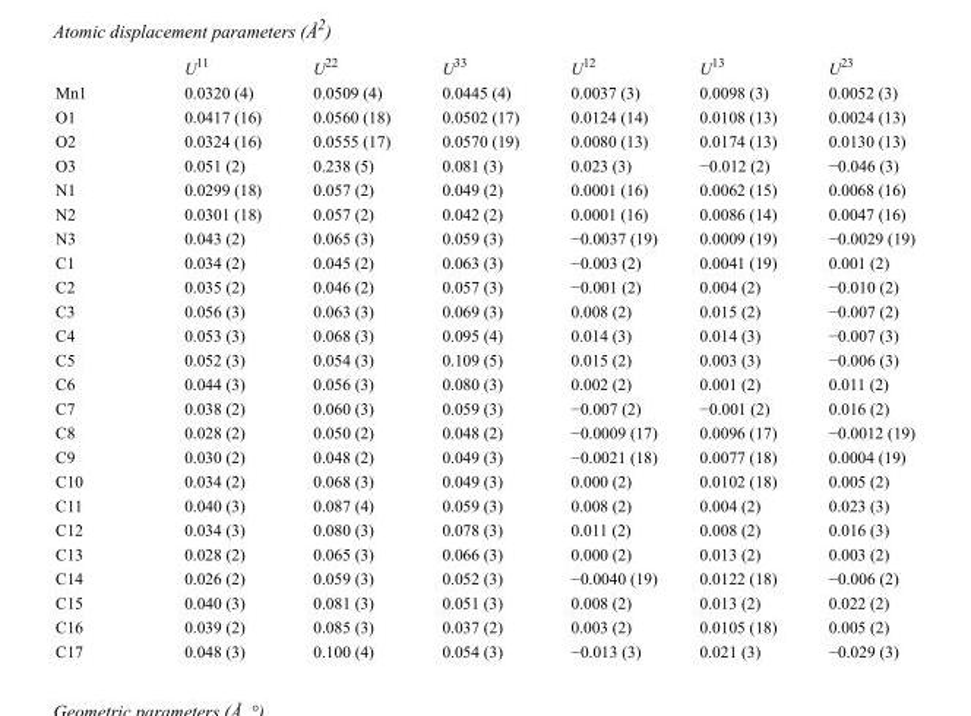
<table><thead><tr><td></td><td>U<sup>11</sup></td><td>U<sup>22</sup></td><td>U<sup>33</sup></td><td>U<sup>12</sup></td><td>U<sup>13</sup></td><td>U<sup>23</sup></td></tr></thead><tbody><tr><td>Mn1</td><td>0.0320 (4)</td><td>0.0509 (4)</td><td>0.0445 (4)</td><td>0.0037 (3)</td><td>0.0098 (3)</td><td>0.0052 (3)</td></tr><tr><td>O1</td><td>0.0417 (16)</td><td>0.0560 (18)</td><td>0.0502 (17)</td><td>0.0124 (14)</td><td>0.0108 (13)</td><td>0.0024 (13)</td></tr><tr><td>O2</td><td>0.0324 (16)</td><td>0.0555 (17)</td><td>0.0570 (19)</td><td>0.0080 (13)</td><td>0.0174 (13)</td><td>0.0130 (13)</td></tr><tr><td>O3</td><td>0.051 (2)</td><td>0.238 (5)</td><td>0.081 (3)</td><td>0.023 (3)</td><td>−0.012 (2)</td><td>−0.046 (3)</td></tr><tr><td>N1</td><td>0.0299 (18)</td><td>0.057 (2)</td><td>0.049 (2)</td><td>0.0001 (16)</td><td>0.0062 (15)</td><td>0.0068 (16)</td></tr><tr><td>N2</td><td>0.0301 (18)</td><td>0.057 (2)</td><td>0.042 (2)</td><td>0.0001 (16)</td><td>0.0086 (14)</td><td>0.0047 (16)</td></tr><tr><td>N3</td><td>0.043 (2)</td><td>0.065 (3)</td><td>0.059 (3)</td><td>−0.0037 (19)</td><td>0.0009 (19)</td><td>−0.0029 (19)</td></tr><tr><td>C1</td><td>0.034 (2)</td><td>0.045 (2)</td><td>0.063 (3)</td><td>−0.003 (2)</td><td>0.0041 (19)</td><td>0.001 (2)</td></tr><tr><td>C2</td><td>0.035 (2)</td><td>0.046 (2)</td><td>0.057 (3)</td><td>−0.001 (2)</td><td>0.004 (2)</td><td>−0.010 (2)</td></tr><tr><td>C3</td><td>0.056 (3)</td><td>0.063 (3)</td><td>0.069 (3)</td><td>0.008 (2)</td><td>0.015 (2)</td><td>−0.007 (2)</td></tr><tr><td>C4</td><td>0.053 (3)</td><td>0.068 (3)</td><td>0.095 (4)</td><td>0.014 (3)</td><td>0.014 (3)</td><td>−0.007 (3)</td></tr><tr><td>C5</td><td>0.052 (3)</td><td>0.054 (3)</td><td>0.109 (5)</td><td>0.015 (2)</td><td>0.003 (3)</td><td>−0.006 (3)</td></tr><tr><td>C6</td><td>0.044 (3)</td><td>0.056 (3)</td><td>0.080 (3)</td><td>0.002 (2)</td><td>0.001 (2)</td><td>0.011 (2)</td></tr><tr><td>C7</td><td>0.038 (2)</td><td>0.060 (3)</td><td>0.059 (3)</td><td>−0.007 (2)</td><td>−0.001 (2)</td><td>0.016 (2)</td></tr><tr><td>C8</td><td>0.028 (2)</td><td>0.050 (2)</td><td>0.048 (2)</td><td>−0.0009 (17)</td><td>0.0096 (17)</td><td>−0.0012 (19)</td></tr><tr><td>C9</td><td>0.030 (2)</td><td>0.048 (2)</td><td>0.049 (3)</td><td>−0.0021 (18)</td><td>0.0077 (18)</td><td>0.0004 (19)</td></tr><tr><td>C10</td><td>0.034 (2)</td><td>0.068 (3)</td><td>0.049 (3)</td><td>0.000 (2)</td><td>0.0102 (18)</td><td>0.005 (2)</td></tr><tr><td>C11</td><td>0.040 (3)</td><td>0.087 (4)</td><td>0.059 (3)</td><td>0.008 (2)</td><td>0.004 (2)</td><td>0.023 (3)</td></tr><tr><td>C12</td><td>0.034 (3)</td><td>0.080 (3)</td><td>0.078 (3)</td><td>0.011 (2)</td><td>0.008 (2)</td><td>0.016 (3)</td></tr><tr><td>C13</td><td>0.028 (2)</td><td>0.065 (3)</td><td>0.066 (3)</td><td>0.000 (2)</td><td>0.013 (2)</td><td>0.003 (2)</td></tr><tr><td>C14</td><td>0.026 (2)</td><td>0.059 (3)</td><td>0.052 (3)</td><td>−0.0040 (19)</td><td>0.0122 (18)</td><td>−0.006 (2)</td></tr><tr><td>C15</td><td>0.040 (3)</td><td>0.081 (3)</td><td>0.051 (3)</td><td>0.008 (2)</td><td>0.013 (2)</td><td>0.022 (2)</td></tr><tr><td>C16</td><td>0.039 (2)</td><td>0.085 (3)</td><td>0.037 (2)</td><td>0.003 (2)</td><td>0.0105 (18)</td><td>0.005 (2)</td></tr><tr><td>C17</td><td>0.048 (3)</td><td>0.100 (4)</td><td>0.054 (3)</td><td>−0.013 (3)</td><td>0.021 (3)</td><td>−0.029 (3)</td></tr></tbody></table>